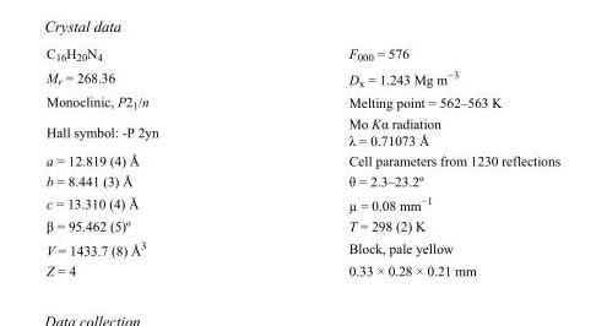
<table><tbody><tr><td>C<sub>16</sub>H<sub>20</sub>N<sub>4</sub></td><td>F000 = 576</td></tr><tr><td>M<sub>r</sub> = 268.36</td><td>D<sub>x</sub> = 1.243 Mg m<sup>−3</sup></td></tr><tr><td>Monoclinic, P2<sub>1</sub>/n</td><td>Melting point = 562–563 K</td></tr><tr><td>Hall symbol: -P 2yn</td><td>Mo Kα radiation λ = 0.71073 Å</td></tr><tr><td>a = 12.819 (4) Å</td><td>Cell parameters from 1230 reflections</td></tr><tr><td>b = 8.441 (3) Å</td><td>θ = 2.3–23.2º</td></tr><tr><td>c = 13.310 (4) Å</td><td>µ = 0.08 mm<sup>−1</sup></td></tr><tr><td>β = 95.462 (5)º</td><td>T = 298 (2) K</td></tr><tr><td>V = 1433.7 (8) Å<sup>3</sup></td><td>Block, pale yellow</td></tr><tr><td>Z = 4</td><td>0.33 × 0.28 × 0.21 mm</td></tr></tbody></table>